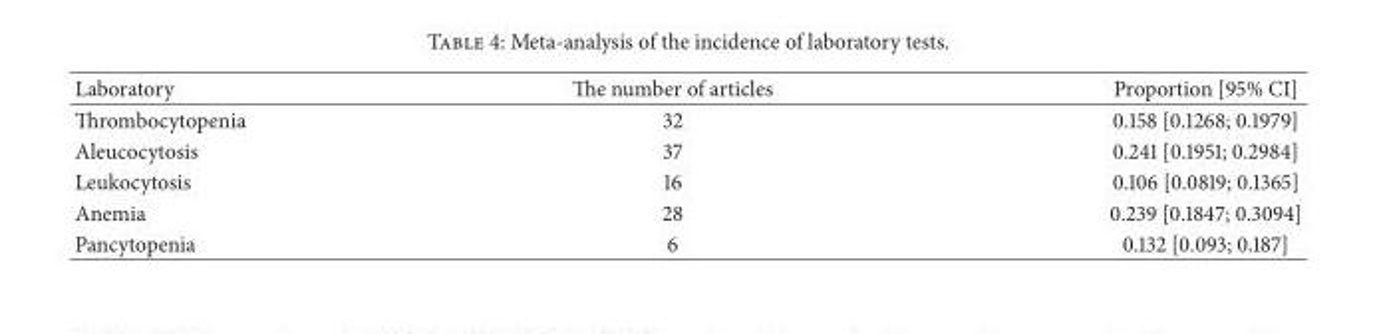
<table><thead><tr><td>Laboratory</td><td>The number of articles</td><td>Proportion [95% CI]</td></tr></thead><tbody><tr><td>Thrombocytopenia</td><td>32</td><td>0.158 [0.1268; 0.1979]</td></tr><tr><td>Aleucocytosis</td><td>37</td><td>0.241 [0.1951; 0.2984]</td></tr><tr><td>Leukocytosis</td><td>16</td><td>0.106 [0.0819; 0.1365]</td></tr><tr><td>Anemia</td><td>28</td><td>0.239 [0.1847; 0.3094]</td></tr><tr><td>Pancytopenia</td><td>6</td><td>0.132 [0.093; 0.187]</td></tr></tbody></table>